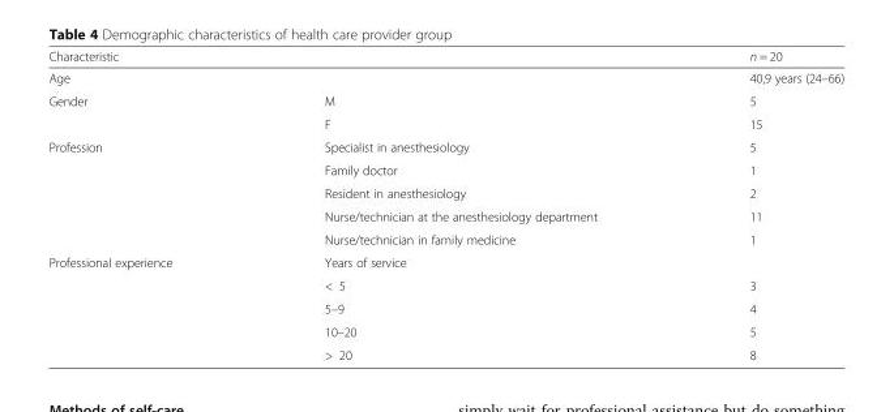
<table><thead><tr><td>Characteristic</td><td></td><td>n = 20</td></tr></thead><tbody><tr><td>Age</td><td></td><td>40,9 years (24–66)</td></tr><tr><td rowspan="2">Gender</td><td>M</td><td>5</td></tr><tr><td>F</td><td>15</td></tr><tr><td rowspan="5">Profession</td><td>Specialist in anesthesiology</td><td>5</td></tr><tr><td>Family doctor</td><td>1</td></tr><tr><td>Resident in anesthesiology</td><td>2</td></tr><tr><td>Nurse/technician at the anesthesiology department</td><td>11</td></tr><tr><td>Nurse/technician in family medicine</td><td>1</td></tr><tr><td rowspan="5">Professional experience</td><td>Years of service</td><td></td></tr><tr><td>&lt; 5</td><td>3</td></tr><tr><td>5–9</td><td>4</td></tr><tr><td>10–20</td><td>5</td></tr><tr><td>&gt; 20</td><td>8</td></tr></tbody></table>